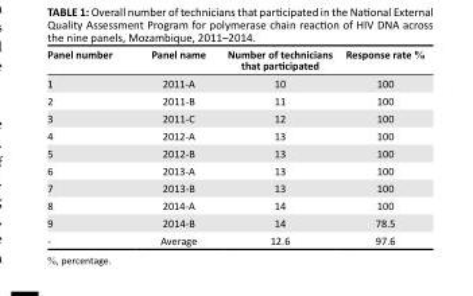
<table><thead><tr><td>Panel number</td><td>Panel name</td><td>Number of technicians that participated</td><td>Response rate %</td></tr></thead><tbody><tr><td>1</td><td>2011-A</td><td>10</td><td>100</td></tr><tr><td>2</td><td>2011-B</td><td>11</td><td>100</td></tr><tr><td>3</td><td>2011-C</td><td>12</td><td>100</td></tr><tr><td>4</td><td>2012-A</td><td>13</td><td>100</td></tr><tr><td>5</td><td>2012-B</td><td>13</td><td>100</td></tr><tr><td>6</td><td>2013-A</td><td>13</td><td>100</td></tr><tr><td>7</td><td>2013-B</td><td>13</td><td>100</td></tr><tr><td>8</td><td>2014-A</td><td>14</td><td>100</td></tr><tr><td>9</td><td>2014-B</td><td>14</td><td>78.5</td></tr><tr><td>-</td><td>Average</td><td>12.6</td><td>97.6</td></tr></tbody></table>